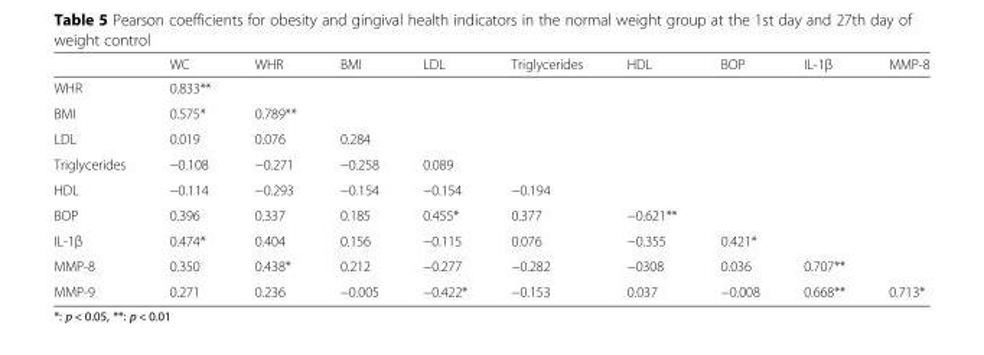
<table><thead><tr><td></td><td>WC</td><td>WHR</td><td>BMI</td><td>LDL</td><td>Triglycerides</td><td>HDL</td><td>BOP</td><td>IL-1β</td><td>MMP-8</td></tr></thead><tbody><tr><td>WHR</td><td>0.833**</td><td></td><td></td><td></td><td></td><td></td><td></td><td></td><td></td></tr><tr><td>BMI</td><td>0.575*</td><td>0.789**</td><td></td><td></td><td></td><td></td><td></td><td></td><td></td></tr><tr><td>LDL</td><td>0.019</td><td>0.076</td><td>0.284</td><td></td><td></td><td></td><td></td><td></td><td></td></tr><tr><td>Triglycerides</td><td>−0.108</td><td>−0.271</td><td>−0.258</td><td>0.089</td><td></td><td></td><td></td><td></td><td></td></tr><tr><td>HDL</td><td>−0.114</td><td>−0.293</td><td>−0.154</td><td>−0.154</td><td>−0.194</td><td></td><td></td><td></td><td></td></tr><tr><td>BOP</td><td>0.396</td><td>0.337</td><td>0.185</td><td>0.455*</td><td>0.377</td><td>−0.621**</td><td></td><td></td><td></td></tr><tr><td>IL-1β</td><td>0.474*</td><td>0.404</td><td>0.156</td><td>−0.115</td><td>0.076</td><td>−0.355</td><td>0.421*</td><td></td><td></td></tr><tr><td>MMP-8</td><td>0.350</td><td>0.438*</td><td>0.212</td><td>−0.277</td><td>−0.282</td><td>−0308</td><td>0.036</td><td>0.707**</td><td></td></tr><tr><td>MMP-9</td><td>0.271</td><td>0.236</td><td>−0.005</td><td>−0.422*</td><td>−0.153</td><td>0.037</td><td>−0.008</td><td>0.668**</td><td>0.713*</td></tr></tbody></table>